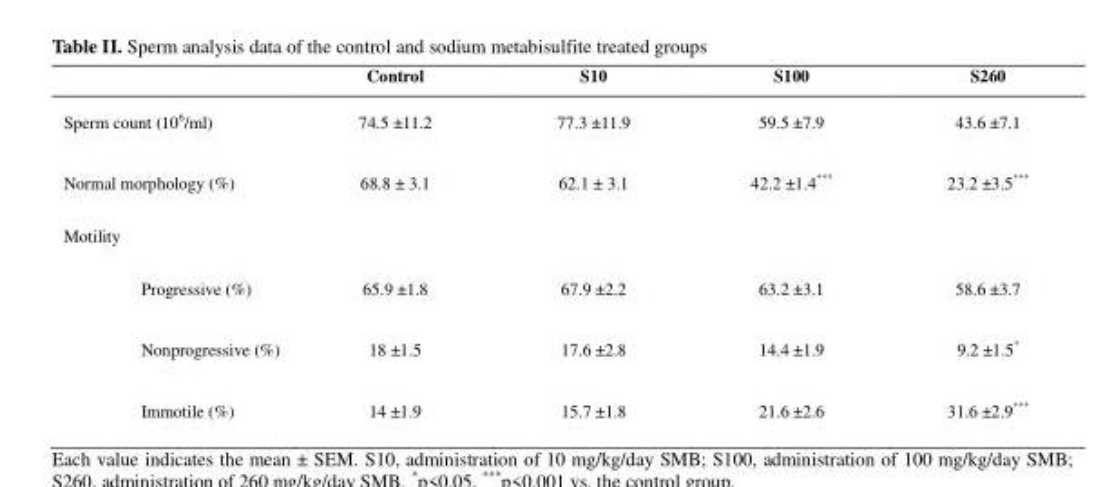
<table><thead><tr><td></td><td>Control</td><td>S10</td><td>S100</td><td>S260</td></tr></thead><tbody><tr><td>Sperm count (10<sup>6</sup>/ml)</td><td>74.5 ±11.2</td><td>77.3 ±11.9</td><td>59.5 ±7.9</td><td>43.6 ±7.1</td></tr><tr><td>Normal morphology (%)</td><td>68.8 ± 3.1</td><td>62.1 ± 3.1</td><td>42.2 ±1.4***</td><td>23.2 ±3.5***</td></tr><tr><td colspan="5">Motility</td></tr><tr><td>Progressive (%)</td><td>65.9 ±1.8</td><td>67.9 ±2.2</td><td>63.2 ±3.1</td><td>58.6 ±3.7</td></tr><tr><td>Nonprogressive (%)</td><td>18 ±1.5</td><td>17.6 ±2.8</td><td>14.4 ±1.9</td><td>9.2 ±1.5*</td></tr><tr><td>Immotile (%)</td><td>14 ±1.9</td><td>15.7 ±1.8</td><td>21.6 ±2.6</td><td>31.6 ±2.9***</td></tr></tbody></table>